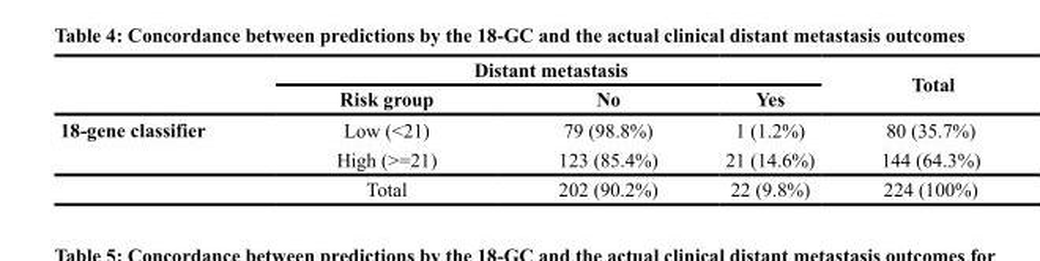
<table><thead><tr><td rowspan="2"></td><td colspan="3">Distant metastasis</td><td rowspan="2">Total</td></tr><tr><td>Risk group</td><td>No</td><td>Yes</td></tr></thead><tbody><tr><td rowspan="3">18-gene classifier</td><td>Low (&lt;21)</td><td>79 (98.8%)</td><td>1 (1.2%)</td><td>80 (35.7%)</td></tr><tr><td>High (&gt;=21)</td><td>123 (85.4%)</td><td>21 (14.6%)</td><td>144 (64.3%)</td></tr><tr><td>Total</td><td>202 (90.2%)</td><td>22 (9.8%)</td><td>224 (100%)</td></tr></tbody></table>